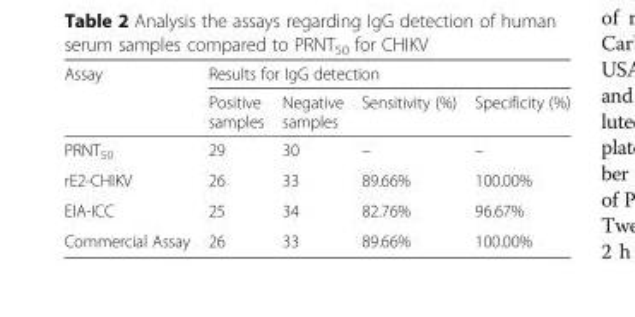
<table><thead><tr><td rowspan="2">Assay</td><td colspan="4">Results for IgG detection</td></tr><tr><td>Positive samples</td><td>Negative samples</td><td>Sensitivity (%)</td><td>Specificity (%)</td></tr></thead><tbody><tr><td>PRNT<sub>50</sub></td><td>29</td><td>30</td><td>–</td><td>–</td></tr><tr><td>rE2-CHIKV</td><td>26</td><td>33</td><td>89.66%</td><td>100.00%</td></tr><tr><td>EIA-ICC</td><td>25</td><td>34</td><td>82.76%</td><td>96.67%</td></tr><tr><td>Commercial Assay</td><td>26</td><td>33</td><td>89.66%</td><td>100.00%</td></tr></tbody></table>